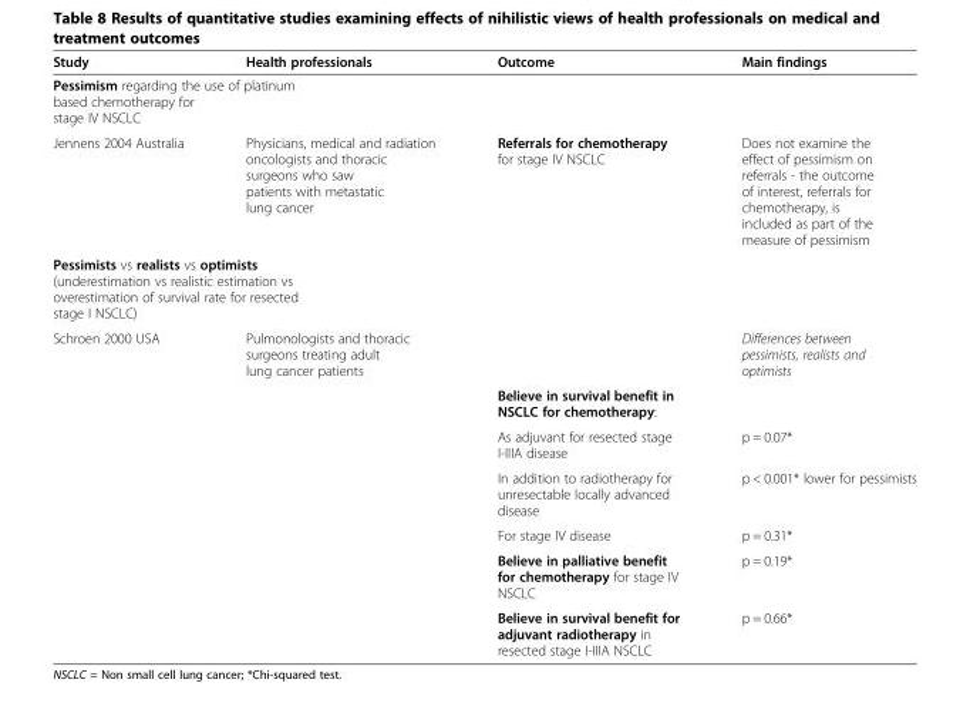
<table><thead><tr><td>Study</td><td>Health professionals</td><td>Outcome</td><td>Main findings</td></tr></thead><tbody><tr><td colspan="4">Pessimism regarding the use of platinum based chemotherapy for stage IV NSCLC</td></tr><tr><td>Jennens 2004 Australia</td><td>Physicians, medical and radiation oncologists and thoracic surgeons who saw patients with metastatic lung cancer</td><td>Referrals for chemotherapy for stage IV NSCLC</td><td>Does not examine the effect of pessimism on referrals - the outcome of interest, referrals for chemotherapy, is included as part of the measure of pessimism</td></tr><tr><td colspan="4">Pessimists vs realists vs optimists (underestimation vs realistic estimation vs overestimation of survival rate for resected stage I NSCLC)</td></tr><tr><td rowspan="7">Schroen 2000 USA</td><td rowspan="7">Pulmonologists and thoracic surgeons treating adult lung cancer patients</td><td></td><td>Differences between pessimists, realists and optimists</td></tr><tr><td>Believe in survival benefit in NSCLC for chemotherapy:</td><td></td></tr><tr><td>As adjuvant for resected stage I-IIIA disease</td><td>p = 0.07*</td></tr><tr><td>In addition to radiotherapy for unresectable locally advanced disease</td><td>p &lt; 0.001* lower for pessimists</td></tr><tr><td>For stage IV disease</td><td>p = 0.31*</td></tr><tr><td>Believe in palliative benefit for chemotherapy for stage IV NSCLC</td><td>p = 0.19*</td></tr><tr><td>Believe in survival benefit for adjuvant radiotherapy in resected stage I-IIIA NSCLC</td><td>p = 0.66*</td></tr></tbody></table>